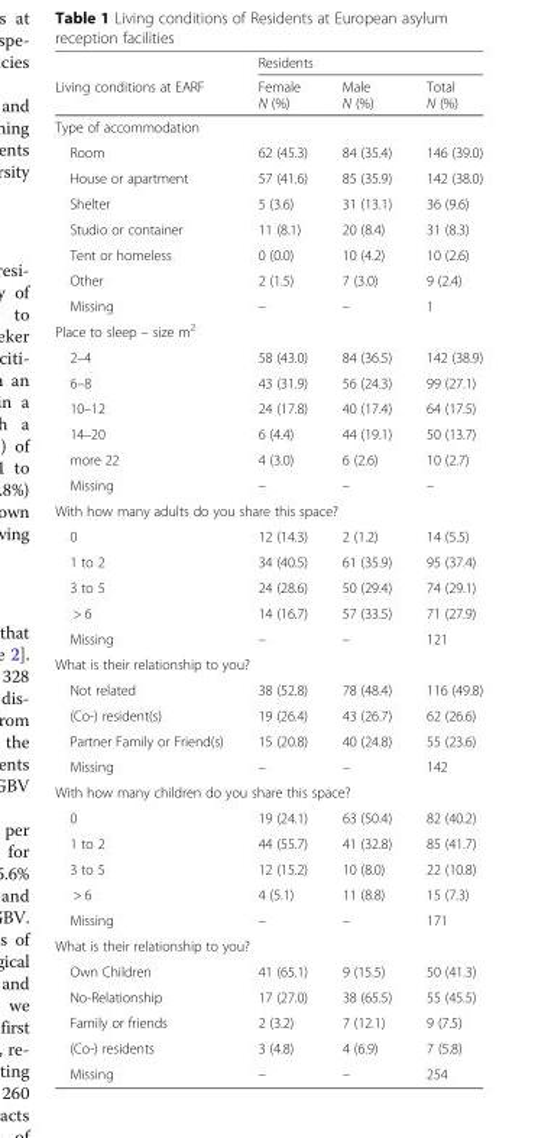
<table><thead><tr><td rowspan="2">Living conditions at EARF</td><td colspan="3">Residents</td></tr><tr><td>Female N (%)</td><td>Male N (%)</td><td>Total N (%)</td></tr></thead><tbody><tr><td colspan="4">Type of accommodation</td></tr><tr><td>Room</td><td>62 (45.3)</td><td>84 (35.4)</td><td>146 (39.0)</td></tr><tr><td>House or apartment</td><td>57 (41.6)</td><td>85 (35.9)</td><td>142 (38.0)</td></tr><tr><td>Shelter</td><td>5 (3.6)</td><td>31 (13.1)</td><td>36 (9.6)</td></tr><tr><td>Studio or container</td><td>11 (8.1)</td><td>20 (8.4)</td><td>31 (8.3)</td></tr><tr><td>Tent or homeless</td><td>0 (0.0)</td><td>10 (4.2)</td><td>10 (2.6)</td></tr><tr><td>Other</td><td>2 (1.5)</td><td>7 (3.0)</td><td>9 (2.4)</td></tr><tr><td>Missing</td><td>–</td><td>–</td><td>1</td></tr><tr><td colspan="4">Place to sleep – size m<sup>2</sup></td></tr><tr><td>2–4</td><td>58 (43.0)</td><td>84 (36.5)</td><td>142 (38.9)</td></tr><tr><td>6–8</td><td>43 (31.9)</td><td>56 (24.3)</td><td>99 (27.1)</td></tr><tr><td>10–12</td><td>24 (17.8)</td><td>40 (17.4)</td><td>64 (17.5)</td></tr><tr><td>14–20</td><td>6 (4.4)</td><td>44 (19.1)</td><td>50 (13.7)</td></tr><tr><td>more 22</td><td>4 (3.0)</td><td>6 (2.6)</td><td>10 (2.7)</td></tr><tr><td>Missing</td><td>–</td><td>–</td><td>–</td></tr><tr><td colspan="4">With how many adults do you share this space?</td></tr><tr><td>0</td><td>12 (14.3)</td><td>2 (1.2)</td><td>14 (5.5)</td></tr><tr><td>1 to 2</td><td>34 (40.5)</td><td>61 (35.9)</td><td>95 (37.4)</td></tr><tr><td>3 to 5</td><td>24 (28.6)</td><td>50 (29.4)</td><td>74 (29.1)</td></tr><tr><td>&gt; 6</td><td>14 (16.7)</td><td>57 (33.5)</td><td>71 (27.9)</td></tr><tr><td>Missing</td><td>–</td><td>–</td><td>121</td></tr><tr><td colspan="4">What is their relationship to you?</td></tr><tr><td>Not related</td><td>38 (52.8)</td><td>78 (48.4)</td><td>116 (49.8)</td></tr><tr><td>(Co-) resident(s)</td><td>19 (26.4)</td><td>43 (26.7)</td><td>62 (26.6)</td></tr><tr><td>Partner Family or Friend(s)</td><td>15 (20.8)</td><td>40 (24.8)</td><td>55 (23.6)</td></tr><tr><td>Missing</td><td>–</td><td>–</td><td>142</td></tr><tr><td colspan="4">With how many children do you share this space?</td></tr><tr><td>0</td><td>19 (24.1)</td><td>63 (50.4)</td><td>82 (40.2)</td></tr><tr><td>1 to 2</td><td>44 (55.7)</td><td>41 (32.8)</td><td>85 (41.7)</td></tr><tr><td>3 to 5</td><td>12 (15.2)</td><td>10 (8.0)</td><td>22 (10.8)</td></tr><tr><td>&gt; 6</td><td>4 (5.1)</td><td>11 (8.8)</td><td>15 (7.3)</td></tr><tr><td>Missing</td><td>–</td><td>–</td><td>171</td></tr><tr><td colspan="4">What is their relationship to you?</td></tr><tr><td>Own Children</td><td>41 (65.1)</td><td>9 (15.5)</td><td>50 (41.3)</td></tr><tr><td>No-Relationship</td><td>17 (27.0)</td><td>38 (65.5)</td><td>55 (45.5)</td></tr><tr><td>Family or friends</td><td>2 (3.2)</td><td>7 (12.1)</td><td>9 (7.5)</td></tr><tr><td>(Co-) residents</td><td>3 (4.8)</td><td>4 (6.9)</td><td>7 (5.8)</td></tr><tr><td>Missing</td><td>–</td><td>–</td><td>254</td></tr></tbody></table>